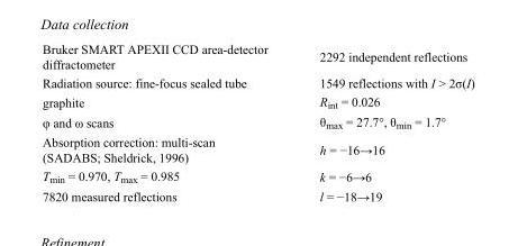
<table><tbody><tr><td>Bruker SMART APEXII CCD area-detector diffractometer</td><td>2292 independent reflections</td></tr><tr><td>Radiation source: fine-focus sealed tube</td><td>1549 reflections with I &gt; 2σ(I)</td></tr><tr><td>graphite</td><td>R<sub>int</sub> = 0.026</td></tr><tr><td>φ and ω scans</td><td>θ<sub>max</sub> = 27.7°, θ<sub>min</sub> = 1.7°</td></tr><tr><td>Absorption correction: multi-scan (SADABS; Sheldrick, 1996)</td><td>h = −16→16</td></tr><tr><td>T<sub>min</sub> = 0.970, T<sub>max</sub> = 0.985</td><td>k = −6→6</td></tr><tr><td>7820 measured reflections</td><td>l = −18→19</td></tr></tbody></table>